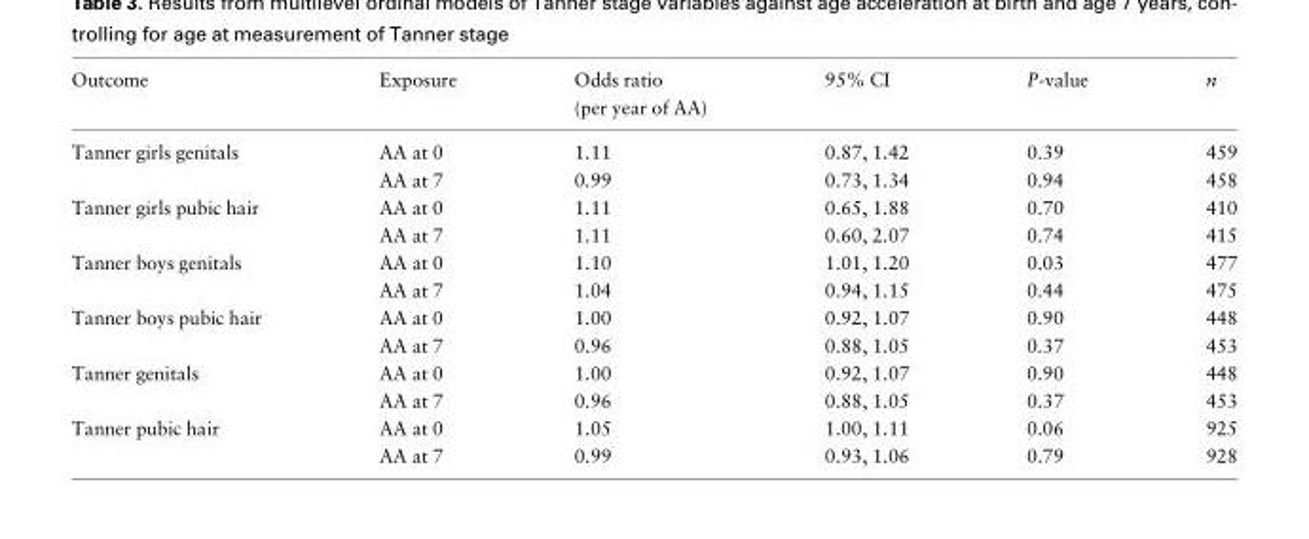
<table><thead><tr><td>Outcome</td><td>Exposure</td><td>Odds ratio (per year of AA)</td><td>95% CI</td><td>P-value</td><td>n</td></tr></thead><tbody><tr><td rowspan="2">Tanner girls genitals</td><td>AA at 0</td><td>1.11</td><td>0.87, 1.42</td><td>0.39</td><td>459</td></tr><tr><td>AA at 7</td><td>0.99</td><td>0.73, 1.34</td><td>0.94</td><td>458</td></tr><tr><td rowspan="2">Tanner girls pubic hair</td><td>AA at 0</td><td>1.11</td><td>0.65, 1.88</td><td>0.70</td><td>410</td></tr><tr><td>AA at 7</td><td>1.11</td><td>0.60, 2.07</td><td>0.74</td><td>415</td></tr><tr><td rowspan="2">Tanner boys genitals</td><td>AA at 0</td><td>1.10</td><td>1.01, 1.20</td><td>0.03</td><td>477</td></tr><tr><td>AA at 7</td><td>1.04</td><td>0.94, 1.15</td><td>0.44</td><td>475</td></tr><tr><td rowspan="2">Tanner boys pubic hair</td><td>AA at 0</td><td>1.00</td><td>0.92, 1.07</td><td>0.90</td><td>448</td></tr><tr><td>AA at 7</td><td>0.96</td><td>0.88, 1.05</td><td>0.37</td><td>453</td></tr><tr><td rowspan="2">Tanner genitals</td><td>AA at 0</td><td>1.00</td><td>0.92, 1.07</td><td>0.90</td><td>448</td></tr><tr><td>AA at 7</td><td>0.96</td><td>0.88, 1.05</td><td>0.37</td><td>453</td></tr><tr><td rowspan="2">Tanner pubic hair</td><td>AA at 0</td><td>1.05</td><td>1.00, 1.11</td><td>0.06</td><td>925</td></tr><tr><td>AA at 7</td><td>0.99</td><td>0.93, 1.06</td><td>0.79</td><td>928</td></tr></tbody></table>